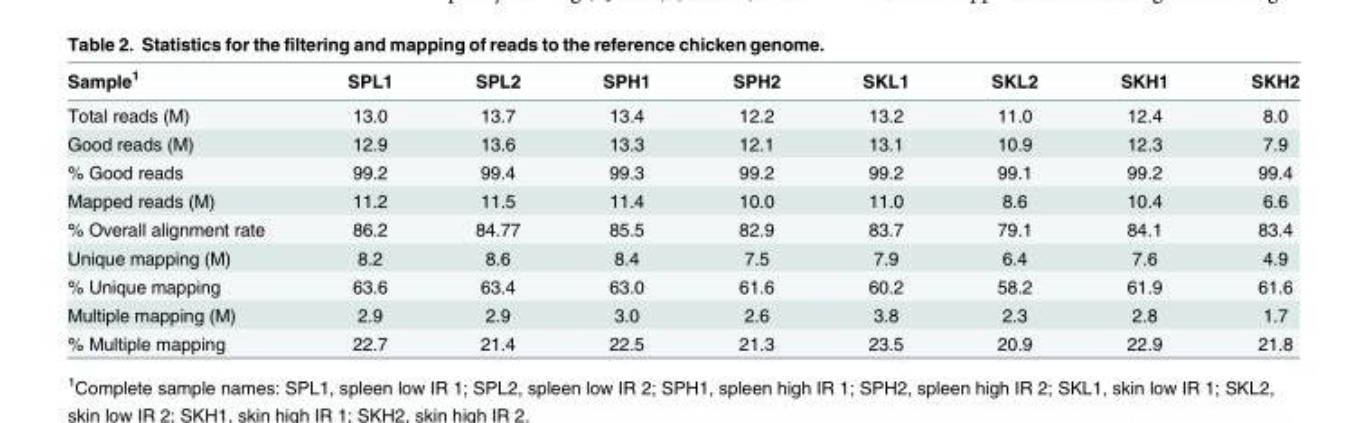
<table><thead><tr><td>Sample<sup>1</sup></td><td>SPL1</td><td>SPL2</td><td>SPH1</td><td>SPH2</td><td>SKL1</td><td>SKL2</td><td>SKH1</td><td>SKH2</td></tr></thead><tbody><tr><td>Total reads (M)</td><td>13.0</td><td>13.7</td><td>13.4</td><td>12.2</td><td>13.2</td><td>11.0</td><td>12.4</td><td>8.0</td></tr><tr><td>Good reads (M)</td><td>12.9</td><td>13.6</td><td>13.3</td><td>12.1</td><td>13.1</td><td>10.9</td><td>12.3</td><td>7.9</td></tr><tr><td>% Good reads</td><td>99.2</td><td>99.4</td><td>99.3</td><td>99.2</td><td>99.2</td><td>99.1</td><td>99.2</td><td>99.4</td></tr><tr><td>Mapped reads (M)</td><td>11.2</td><td>11.5</td><td>11.4</td><td>10.0</td><td>11.0</td><td>8.6</td><td>10.4</td><td>6.6</td></tr><tr><td>% Overall alignment rate</td><td>86.2</td><td>84.77</td><td>85.5</td><td>82.9</td><td>83.7</td><td>79.1</td><td>84.1</td><td>83.4</td></tr><tr><td>Unique mapping (M)</td><td>8.2</td><td>8.6</td><td>8.4</td><td>7.5</td><td>7.9</td><td>6.4</td><td>7.6</td><td>4.9</td></tr><tr><td>% Unique mapping</td><td>63.6</td><td>63.4</td><td>63.0</td><td>61.6</td><td>60.2</td><td>58.2</td><td>61.9</td><td>61.6</td></tr><tr><td>Multiple mapping (M)</td><td>2.9</td><td>2.9</td><td>3.0</td><td>2.6</td><td>3.8</td><td>2.3</td><td>2.8</td><td>1.7</td></tr><tr><td>% Multiple mapping</td><td>22.7</td><td>21.4</td><td>22.5</td><td>21.3</td><td>23.5</td><td>20.9</td><td>22.9</td><td>21.8</td></tr></tbody></table>